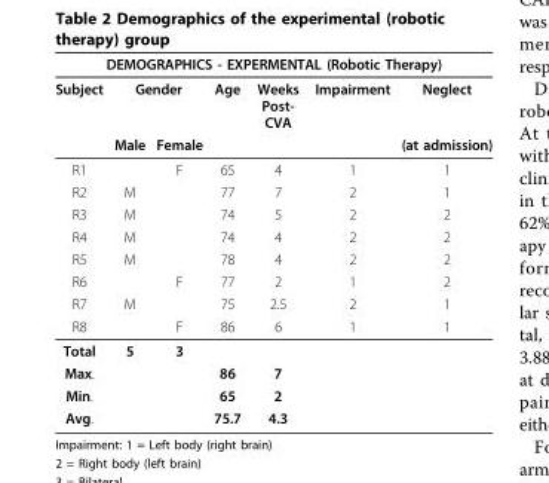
<table><thead><tr><td colspan="7">DEMOGRAPHICS - EXPERMENTAL (Robotic Therapy)</td></tr><tr><td rowspan="2">Subject</td><td colspan="2">Gender</td><td rowspan="2">Age</td><td rowspan="2">Weeks Post- CVA</td><td rowspan="2">Impairment</td><td rowspan="2">Neglect (at admission)</td></tr><tr><td>Male</td><td>Female</td></tr></thead><tbody><tr><td>R1</td><td></td><td>F</td><td>65</td><td>4</td><td>1</td><td>1</td></tr><tr><td>R2</td><td>M</td><td></td><td>77</td><td>7</td><td>2</td><td>1</td></tr><tr><td>R3</td><td>M</td><td></td><td>74</td><td>5</td><td>2</td><td>2</td></tr><tr><td>R4</td><td>M</td><td></td><td>74</td><td>4</td><td>2</td><td>2</td></tr><tr><td>R5</td><td>M</td><td></td><td>78</td><td>4</td><td>2</td><td>2</td></tr><tr><td>R6</td><td></td><td>F</td><td>77</td><td>2</td><td>1</td><td>2</td></tr><tr><td>R7</td><td>M</td><td></td><td>75</td><td>2.5</td><td>2</td><td>1</td></tr><tr><td>R8</td><td></td><td>F</td><td>86</td><td>6</td><td>1</td><td>1</td></tr><tr><td>Total</td><td>5</td><td>3</td><td></td><td></td><td></td><td></td></tr><tr><td>Max.</td><td></td><td></td><td>86</td><td>7</td><td></td><td></td></tr><tr><td>Min.</td><td></td><td></td><td>65</td><td>2</td><td></td><td></td></tr><tr><td>Avg.</td><td></td><td></td><td>75.7</td><td>4.3</td><td></td><td></td></tr></tbody></table>